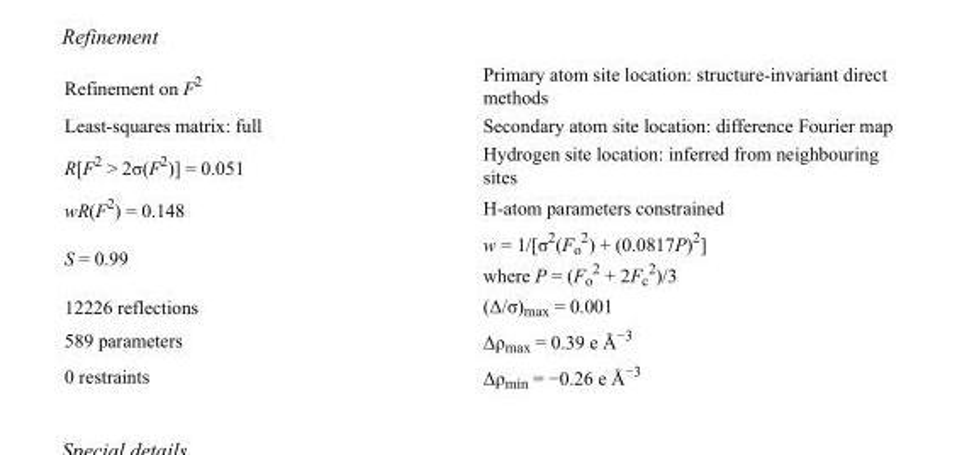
<table><tbody><tr><td>Refinement on F<sup>2</sup></td><td>Primary atom site location: structure-invariant direct methods</td></tr><tr><td>Least-squares matrix: full</td><td>Secondary atom site location: difference Fourier map</td></tr><tr><td>R[F<sup>2</sup> &gt; 2σ(F<sup>2</sup>)] = 0.051</td><td>Hydrogen site location: inferred from neighbouring sites</td></tr><tr><td>wR(F<sup>2</sup>) = 0.148</td><td>H-atom parameters constrained</td></tr><tr><td>S = 0.99</td><td>w = 1/[σ<sup>2</sup>(F<sub>o</sub> <sup>2</sup>) + (0.0817P)<sup>2</sup>] where P = (F<sub>o</sub> <sup>2</sup> + 2F<sub>c</sub> <sup>2</sup>)/3</td></tr><tr><td>12226 reflections</td><td>(Δ/σ)<sub>max</sub> = 0.001</td></tr><tr><td>589 parameters</td><td>Δρ<sub>max</sub> = 0.39 e Å<sup>−3</sup></td></tr><tr><td>0 restraints</td><td>Δρ<sub>min</sub> = −0.26 e Å<sup>−3</sup></td></tr></tbody></table>